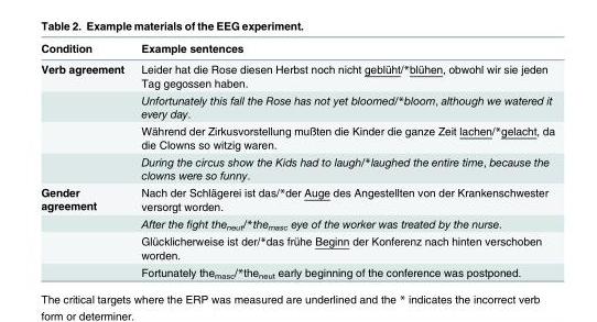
<table><thead><tr><td>Condition</td><td>Example sentences</td></tr></thead><tbody><tr><td rowspan="4">Verb agreement</td><td>Leider hat die Rose diesen Herbst noch nicht geblüht/*blühen, obwohl wir sie jeden Tag gegossen haben.</td></tr><tr><td>Unfortunately this fall the Rose has not yet bloomed/*bloom, although we watered it every day.</td></tr><tr><td>Während der Zirkusvorstellung mußten die Kinder die ganze Zeit lachen/*gelacht, da die Clowns so witzig waren.</td></tr><tr><td>During the circus show the Kids had to laugh/*laughed the entire time, because the clowns were so funny.</td></tr><tr><td rowspan="4">Gender agreement</td><td>Nach der Schlägerei ist das/*der Auge des Angestellten von der Krankenschwester versorgt worden.</td></tr><tr><td>After the fight the<sub>neut</sub>/*the<sub>masc</sub> eye of the worker was treated by the nurse.</td></tr><tr><td>Glücklicherweise ist der/*das frühe Beginn der Konferenz nach hinten verschoben worden.</td></tr><tr><td>Fortunately the<sub>masc</sub>/*the<sub>neut</sub> early beginning of the conference was postponed.</td></tr></tbody></table>